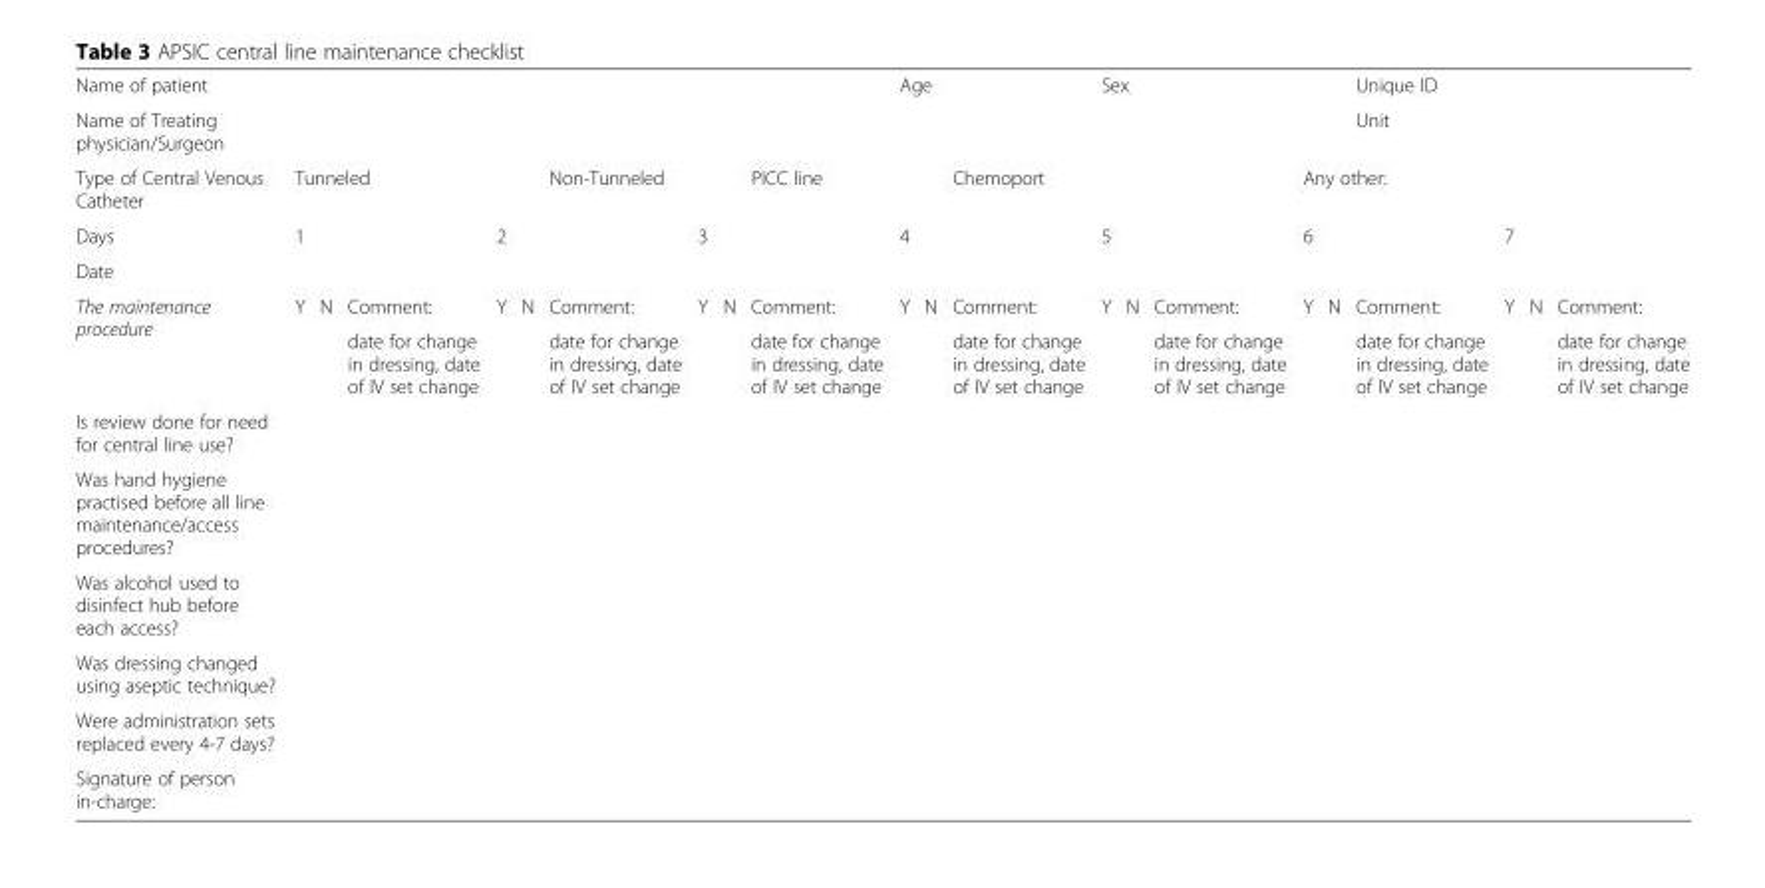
<table><tbody><tr><td>Name of patient</td><td colspan="9"></td><td colspan="2">Age</td><td></td><td colspan="3">Sex</td><td colspan="2"></td><td>Unique ID</td><td colspan="3"></td></tr><tr><td>Name of Treating physician/Surgeon</td><td colspan="9"></td><td colspan="2"></td><td></td><td colspan="3"></td><td colspan="2"></td><td>Unit</td><td colspan="3"></td></tr><tr><td>Type of Central Venous Catheter</td><td colspan="3">Tunneled</td><td colspan="2"></td><td>Non-Tunneled</td><td colspan="2"></td><td>PICC line</td><td colspan="2"></td><td>Chemoport</td><td colspan="3"></td><td colspan="3">Any other:</td><td colspan="3"></td></tr><tr><td>Days</td><td colspan="3">1</td><td colspan="3">2</td><td colspan="3">3</td><td colspan="3">4</td><td colspan="3">5</td><td colspan="3">6</td><td colspan="3">7</td></tr><tr><td colspan="22">Date</td></tr><tr><td rowspan="2">The maintenance procedure</td><td rowspan="2">Y</td><td rowspan="2">N</td><td>Comment:</td><td rowspan="2">Y</td><td rowspan="2">N</td><td>Comment:</td><td rowspan="2">Y</td><td rowspan="2">N</td><td>Comment:</td><td rowspan="2">Y</td><td rowspan="2">N</td><td>Comment:</td><td rowspan="2">Y</td><td rowspan="2">N</td><td>Comment:</td><td rowspan="2">Y</td><td rowspan="2">N</td><td>Comment:</td><td rowspan="2">Y</td><td rowspan="2">N</td><td>Comment:</td></tr><tr><td>date for change in dressing, date of IV set change</td><td>date for change in dressing, date of IV set change</td><td>date for change in dressing, date of IV set change</td><td>date for change in dressing, date of IV set change</td><td>date for change in dressing, date of IV set change</td><td>date for change in dressing, date of IV set change</td><td>date for change in dressing, date of IV set change</td></tr><tr><td colspan="22">Is review done for need for central line use?</td></tr><tr><td colspan="22">Was hand hygiene practised before all line maintenance/access procedures?</td></tr><tr><td colspan="22">Was alcohol used to disinfect hub before each access?</td></tr><tr><td colspan="22">Was dressing changed using aseptic technique?</td></tr><tr><td colspan="22">Were administration sets replaced every 4-7 days?</td></tr><tr><td>Signature of person in-charge:</td><td></td><td></td><td></td><td></td><td></td><td></td><td></td><td></td><td></td><td></td><td></td><td></td><td></td><td></td><td></td><td></td><td></td><td></td><td></td><td></td><td></td></tr></tbody></table>